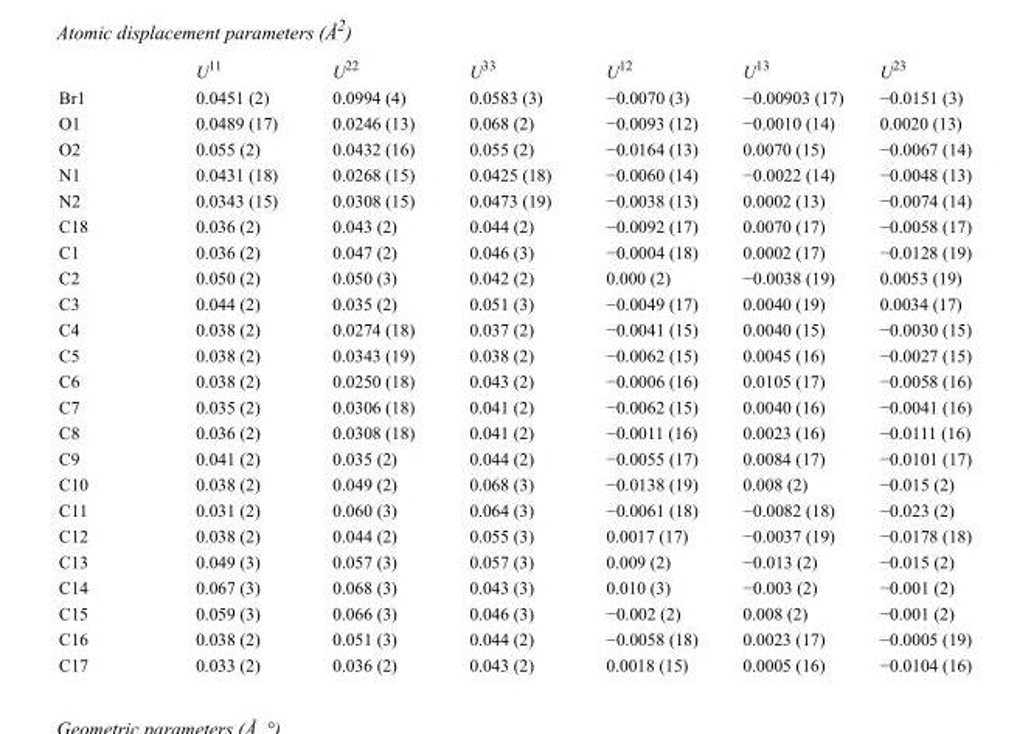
<table><thead><tr><td></td><td>U<sup>11</sup></td><td>U<sup>22</sup></td><td>U<sup>33</sup></td><td>U<sup>12</sup></td><td>U<sup>13</sup></td><td>U<sup>23</sup></td></tr></thead><tbody><tr><td>Br1</td><td>0.0451 (2)</td><td>0.0994 (4)</td><td>0.0583 (3)</td><td>−0.0070 (3)</td><td>−0.00903 (17)</td><td>−0.0151 (3)</td></tr><tr><td>O1</td><td>0.0489 (17)</td><td>0.0246 (13)</td><td>0.068 (2)</td><td>−0.0093 (12)</td><td>−0.0010 (14)</td><td>0.0020 (13)</td></tr><tr><td>O2</td><td>0.055 (2)</td><td>0.0432 (16)</td><td>0.055 (2)</td><td>−0.0164 (13)</td><td>0.0070 (15)</td><td>−0.0067 (14)</td></tr><tr><td>N1</td><td>0.0431 (18)</td><td>0.0268 (15)</td><td>0.0425 (18)</td><td>−0.0060 (14)</td><td>−0.0022 (14)</td><td>−0.0048 (13)</td></tr><tr><td>N2</td><td>0.0343 (15)</td><td>0.0308 (15)</td><td>0.0473 (19)</td><td>−0.0038 (13)</td><td>0.0002 (13)</td><td>−0.0074 (14)</td></tr><tr><td>C18</td><td>0.036 (2)</td><td>0.043 (2)</td><td>0.044 (2)</td><td>−0.0092 (17)</td><td>0.0070 (17)</td><td>−0.0058 (17)</td></tr><tr><td>C1</td><td>0.036 (2)</td><td>0.047 (2)</td><td>0.046 (3)</td><td>−0.0004 (18)</td><td>0.0002 (17)</td><td>−0.0128 (19)</td></tr><tr><td>C2</td><td>0.050 (2)</td><td>0.050 (3)</td><td>0.042 (2)</td><td>0.000 (2)</td><td>−0.0038 (19)</td><td>0.0053 (19)</td></tr><tr><td>C3</td><td>0.044 (2)</td><td>0.035 (2)</td><td>0.051 (3)</td><td>−0.0049 (17)</td><td>0.0040 (19)</td><td>0.0034 (17)</td></tr><tr><td>C4</td><td>0.038 (2)</td><td>0.0274 (18)</td><td>0.037 (2)</td><td>−0.0041 (15)</td><td>0.0040 (15)</td><td>−0.0030 (15)</td></tr><tr><td>C5</td><td>0.038 (2)</td><td>0.0343 (19)</td><td>0.038 (2)</td><td>−0.0062 (15)</td><td>0.0045 (16)</td><td>−0.0027 (15)</td></tr><tr><td>C6</td><td>0.038 (2)</td><td>0.0250 (18)</td><td>0.043 (2)</td><td>−0.0006 (16)</td><td>0.0105 (17)</td><td>−0.0058 (16)</td></tr><tr><td>C7</td><td>0.035 (2)</td><td>0.0306 (18)</td><td>0.041 (2)</td><td>−0.0062 (15)</td><td>0.0040 (16)</td><td>−0.0041 (16)</td></tr><tr><td>C8</td><td>0.036 (2)</td><td>0.0308 (18)</td><td>0.041 (2)</td><td>−0.0011 (16)</td><td>0.0023 (16)</td><td>−0.0111 (16)</td></tr><tr><td>C9</td><td>0.041 (2)</td><td>0.035 (2)</td><td>0.044 (2)</td><td>−0.0055 (17)</td><td>0.0084 (17)</td><td>−0.0101 (17)</td></tr><tr><td>C10</td><td>0.038 (2)</td><td>0.049 (2)</td><td>0.068 (3)</td><td>−0.0138 (19)</td><td>0.008 (2)</td><td>−0.015 (2)</td></tr><tr><td>C11</td><td>0.031 (2)</td><td>0.060 (3)</td><td>0.064 (3)</td><td>−0.0061 (18)</td><td>−0.0082 (18)</td><td>−0.023 (2)</td></tr><tr><td>C12</td><td>0.038 (2)</td><td>0.044 (2)</td><td>0.055 (3)</td><td>0.0017 (17)</td><td>−0.0037 (19)</td><td>−0.0178 (18)</td></tr><tr><td>C13</td><td>0.049 (3)</td><td>0.057 (3)</td><td>0.057 (3)</td><td>0.009 (2)</td><td>−0.013 (2)</td><td>−0.015 (2)</td></tr><tr><td>C14</td><td>0.067 (3)</td><td>0.068 (3)</td><td>0.043 (3)</td><td>0.010 (3)</td><td>−0.003 (2)</td><td>−0.001 (2)</td></tr><tr><td>C15</td><td>0.059 (3)</td><td>0.066 (3)</td><td>0.046 (3)</td><td>−0.002 (2)</td><td>0.008 (2)</td><td>−0.001 (2)</td></tr><tr><td>C16</td><td>0.038 (2)</td><td>0.051 (3)</td><td>0.044 (2)</td><td>−0.0058 (18)</td><td>0.0023 (17)</td><td>−0.0005 (19)</td></tr><tr><td>C17</td><td>0.033 (2)</td><td>0.036 (2)</td><td>0.043 (2)</td><td>0.0018 (15)</td><td>0.0005 (16)</td><td>−0.0104 (16)</td></tr></tbody></table>